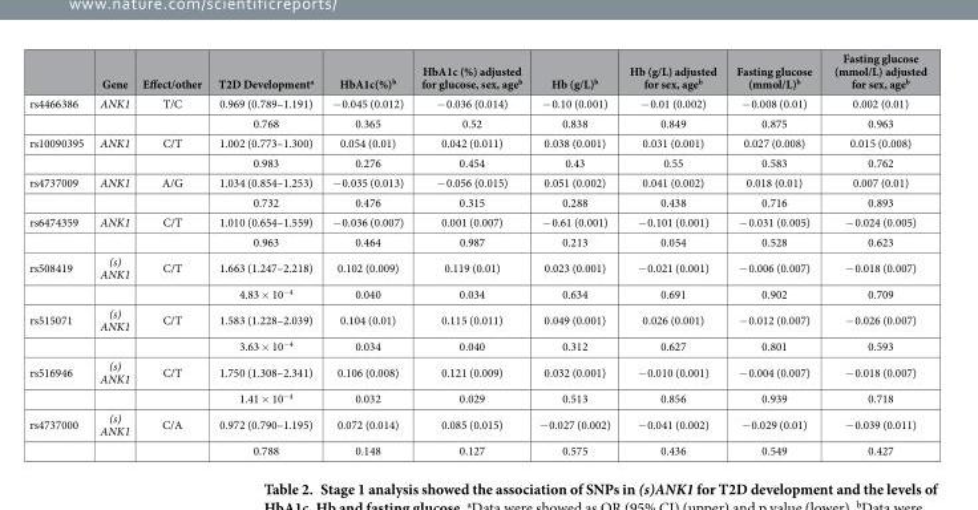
<table><thead><tr><td></td><td>Gene</td><td>Effect/other</td><td>T2D Development<sup>a</sup></td><td>HbA1c(%)<sup>b</sup></td><td>HbA1c (%) adjusted for glucose, sex, age<sup>b</sup></td><td>Hb (g/L)<sup>b</sup></td><td>Hb (g/L) adjusted for sex, age<sup>b</sup></td><td>Fasting glucose (mmol/L)<sup>b</sup></td><td>Fasting glucose (mmol/L) adjusted for sex, age<sup>b</sup></td></tr></thead><tbody><tr><td rowspan="2">rs4466386</td><td>ANK1</td><td>T/C</td><td>0.969 (0.789–1.191)</td><td>− 0.045 (0.012)</td><td>− 0.036 (0.014)</td><td>− 0.10 (0.001)</td><td>− 0.01 (0.002)</td><td>− 0.008 (0.01)</td><td>0.002 (0.01)</td></tr><tr><td></td><td></td><td>0.768</td><td>0.365</td><td>0.52</td><td>0.838</td><td>0.849</td><td>0.875</td><td>0.963</td></tr><tr><td rowspan="2">rs10090395</td><td>ANK1</td><td>C/T</td><td>1.002 (0.773–1.300)</td><td>0.054 (0.01)</td><td>0.042 (0.011)</td><td>0.038 (0.001)</td><td>0.031 (0.001)</td><td>0.027 (0.008)</td><td>0.015 (0.008)</td></tr><tr><td></td><td></td><td>0.983</td><td>0.276</td><td>0.454</td><td>0.43</td><td>0.55</td><td>0.583</td><td>0.762</td></tr><tr><td rowspan="2">rs4737009</td><td>ANK1</td><td>A/G</td><td>1.034 (0.854–1.253)</td><td>− 0.035 (0.013)</td><td>− 0.056 (0.015)</td><td>0.051 (0.002)</td><td>0.041 (0.002)</td><td>0.018 (0.01)</td><td>0.007 (0.01)</td></tr><tr><td></td><td></td><td>0.732</td><td>0.476</td><td>0.315</td><td>0.288</td><td>0.438</td><td>0.716</td><td>0.893</td></tr><tr><td rowspan="2">rs6474359</td><td>ANK1</td><td>C/T</td><td>1.010 (0.654–1.559)</td><td>− 0.036 (0.007)</td><td>0.001 (0.007)</td><td>− 0.61 (0.001)</td><td>− 0.101 (0.001)</td><td>− 0.031 (0.005)</td><td>− 0.024 (0.005)</td></tr><tr><td></td><td></td><td>0.963</td><td>0.464</td><td>0.987</td><td>0.213</td><td>0.054</td><td>0.528</td><td>0.623</td></tr><tr><td rowspan="2">rs508419</td><td>(s) ANK1</td><td>C/T</td><td>1.663 (1.247–2.218)</td><td>0.102 (0.009)</td><td>0.119 (0.01)</td><td>0.023 (0.001)</td><td>− 0.021 (0.001)</td><td>− 0.006 (0.007)</td><td>− 0.018 (0.007)</td></tr><tr><td></td><td></td><td>4.83 × 10<sup>−4</sup></td><td>0.040</td><td>0.034</td><td>0.634</td><td>0.691</td><td>0.902</td><td>0.709</td></tr><tr><td rowspan="2">rs515071</td><td>(s) ANK1</td><td>C/T</td><td>1.583 (1.228–2.039)</td><td>0.104 (0.01)</td><td>0.115 (0.011)</td><td>0.049 (0.001)</td><td>0.026 (0.001)</td><td>− 0.012 (0.007)</td><td>− 0.026 (0.007)</td></tr><tr><td></td><td></td><td>3.63 × 10<sup>−4</sup></td><td>0.034</td><td>0.040</td><td>0.312</td><td>0.627</td><td>0.801</td><td>0.593</td></tr><tr><td rowspan="2">rs516946</td><td>(s) ANK1</td><td>C/T</td><td>1.750 (1.308–2.341)</td><td>0.106 (0.008)</td><td>0.121 (0.009)</td><td>0.032 (0.001)</td><td>− 0.010 (0.001)</td><td>− 0.004 (0.007)</td><td>− 0.018 (0.007)</td></tr><tr><td></td><td></td><td>1.41 × 10<sup>−4</sup></td><td>0.032</td><td>0.029</td><td>0.513</td><td>0.856</td><td>0.939</td><td>0.718</td></tr><tr><td rowspan="2">rs4737000</td><td>(s) ANK1</td><td>C/A</td><td>0.972 (0.790–1.195)</td><td>0.072 (0.014)</td><td>0.085 (0.015)</td><td>− 0.027 (0.002)</td><td>− 0.041 (0.002)</td><td>− 0.029 (0.01)</td><td>− 0.039 (0.011)</td></tr><tr><td></td><td></td><td>0.788</td><td>0.148</td><td>0.127</td><td>0.575</td><td>0.436</td><td>0.549</td><td>0.427</td></tr></tbody></table>